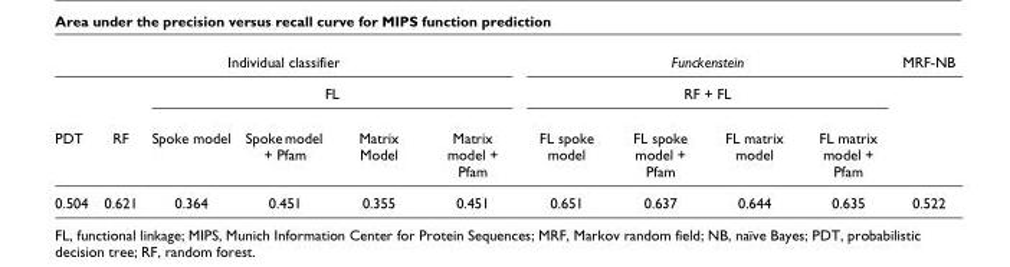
<table><thead><tr><td colspan="6">Individual classifier</td><td rowspan="2" colspan="4">Funckenstein RF + FL</td><td rowspan="3">MRF-NB</td></tr><tr><td rowspan="2">PDT</td><td rowspan="2">RF</td><td colspan="4">FL</td></tr><tr><td>Spoke model</td><td>Spoke model + Pfam</td><td>Matrix Model</td><td>Matrix model + Pfam</td><td>FL spoke model</td><td>FL spoke model + Pfam</td><td>FL matrix model</td><td>FL matrix model + Pfam</td></tr></thead><tbody><tr><td>0.504</td><td>0.621</td><td>0.364</td><td>0.451</td><td>0.355</td><td>0.451</td><td>0.651</td><td>0.637</td><td>0.644</td><td>0.635</td><td>0.522</td></tr></tbody></table>